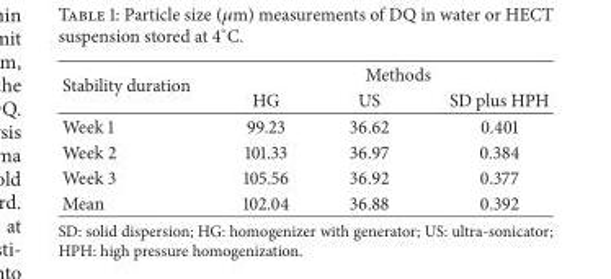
<table><thead><tr><td rowspan="2">Stability duration</td><td colspan="3">Methods</td></tr><tr><td>HG</td><td>US</td><td>SD plus HPH</td></tr></thead><tbody><tr><td>Week 1</td><td>99.23</td><td>36.62</td><td>0.401</td></tr><tr><td>Week 2</td><td>101.33</td><td>36.97</td><td>0.384</td></tr><tr><td>Week 3</td><td>105.56</td><td>36.92</td><td>0.377</td></tr><tr><td>Mean</td><td>102.04</td><td>36.88</td><td>0.392</td></tr></tbody></table>